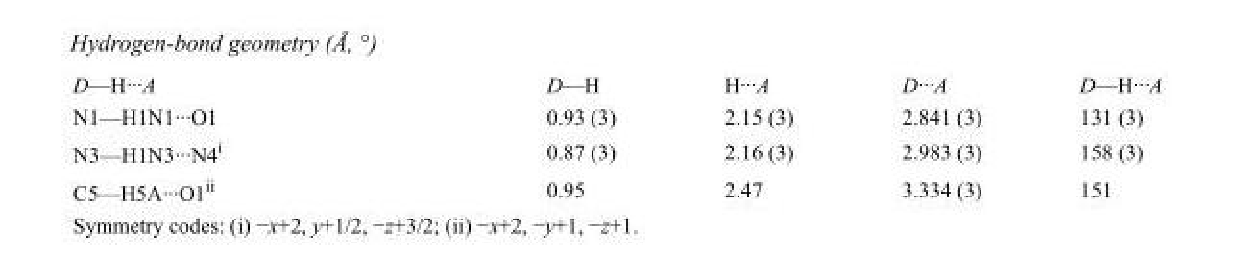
<table><tbody><tr><td>D—H···A</td><td>D—H</td><td>H···A</td><td>D···A</td><td>D—H···A</td></tr><tr><td>N1—H1N1···O1</td><td>0.93 (3)</td><td>2.15 (3)</td><td>2.841 (3)</td><td>131 (3)</td></tr><tr><td>N3—H1N3···N4<sup>i</sup></td><td>0.87 (3)</td><td>2.16 (3)</td><td>2.983 (3)</td><td>158 (3)</td></tr><tr><td>C5—H5A···O1<sup>ii</sup></td><td>0.95</td><td>2.47</td><td>3.334 (3)</td><td>151</td></tr></tbody></table>